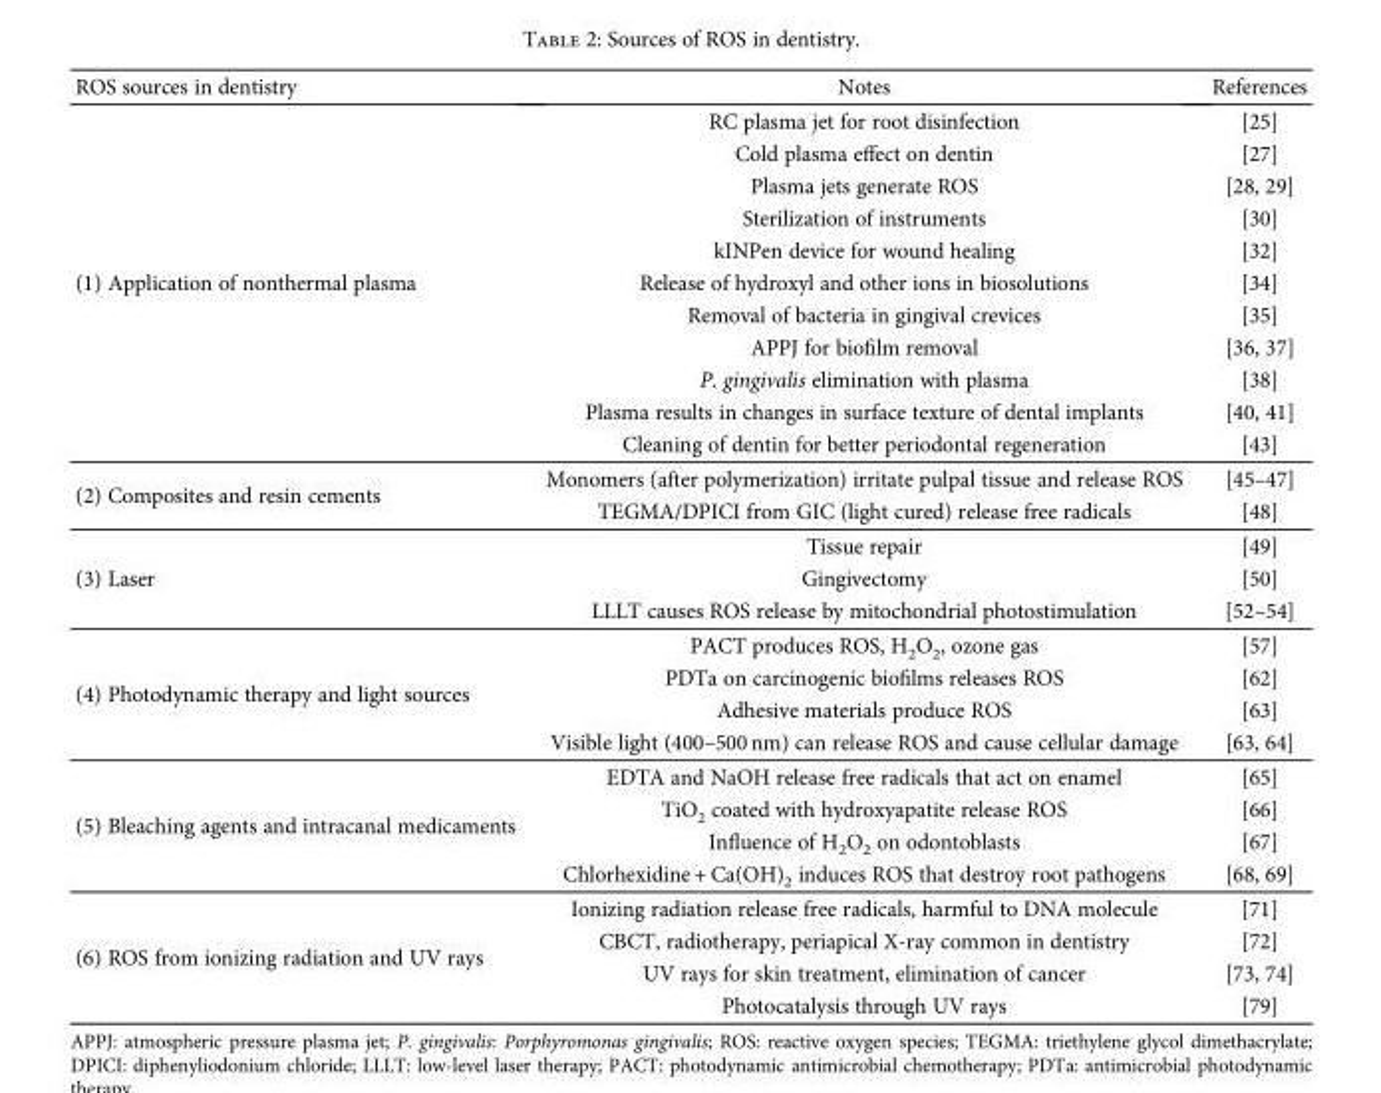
<table><thead><tr><td>ROS sources in dentistry</td><td>Notes</td><td>References</td></tr></thead><tbody><tr><td rowspan="11">(1) Application of nonthermal plasma</td><td>RC plasma jet for root disinfection</td><td>[25]</td></tr><tr><td>Cold plasma effect on dentin</td><td>[27]</td></tr><tr><td>Plasma jets generate ROS</td><td>[28, 29]</td></tr><tr><td>Sterilization of instruments</td><td>[30]</td></tr><tr><td>kINPen device for wound healing</td><td>[32]</td></tr><tr><td>Release of hydroxyl and other ions in biosolutions</td><td>[34]</td></tr><tr><td>Removal of bacteria in gingival crevices</td><td>[35]</td></tr><tr><td>APPJ for biofilm removal</td><td>[36, 37]</td></tr><tr><td>P. gingivalis elimination with plasma</td><td>[38]</td></tr><tr><td>Plasma results in changes in surface texture of dental implants</td><td>[40, 41]</td></tr><tr><td>Cleaning of dentin for better periodontal regeneration</td><td>[43]</td></tr><tr><td rowspan="2">(2) Composites and resin cements</td><td>Monomers (after polymerization) irritate pulpal tissue and release ROS</td><td>[45–47]</td></tr><tr><td>TEGMA/DPICI from GIC (light cured) release free radicals</td><td>[48]</td></tr><tr><td rowspan="3">(3) Laser</td><td>Tissue repair</td><td>[49]</td></tr><tr><td>Gingivectomy</td><td>[50]</td></tr><tr><td>LLLT causes ROS release by mitochondrial photostimulation</td><td>[52–54]</td></tr><tr><td rowspan="4">(4) Photodynamic therapy and light sources</td><td>PACT produces ROS, H<sub>2</sub>O<sub>2</sub>, ozone gas</td><td>[57]</td></tr><tr><td>PDTa on carcinogenic biofilms releases ROS</td><td>[62]</td></tr><tr><td>Adhesive materials produce ROS</td><td>[63]</td></tr><tr><td>Visible light (400–500 nm) can release ROS and cause cellular damage</td><td>[63, 64]</td></tr><tr><td rowspan="4">(5) Bleaching agents and intracanal medicaments</td><td>EDTA and NaOH release free radicals that act on enamel</td><td>[65]</td></tr><tr><td>TiO<sub>2</sub> coated with hydroxyapatite release ROS</td><td>[66]</td></tr><tr><td>Influence of H<sub>2</sub>O<sub>2</sub> on odontoblasts</td><td>[67]</td></tr><tr><td>Chlorhexidine + Ca(OH)<sub>2</sub> induces ROS that destroy root pathogens</td><td>[68, 69]</td></tr><tr><td rowspan="4">(6) ROS from ionizing radiation and UV rays</td><td>Ionizing radiation release free radicals, harmful to DNA molecule</td><td>[71]</td></tr><tr><td>CBCT, radiotherapy, periapical X-ray common in dentistry</td><td>[72]</td></tr><tr><td>UV rays for skin treatment, elimination of cancer</td><td>[73, 74]</td></tr><tr><td>Photocatalysis through UV rays</td><td>[79]</td></tr></tbody></table>